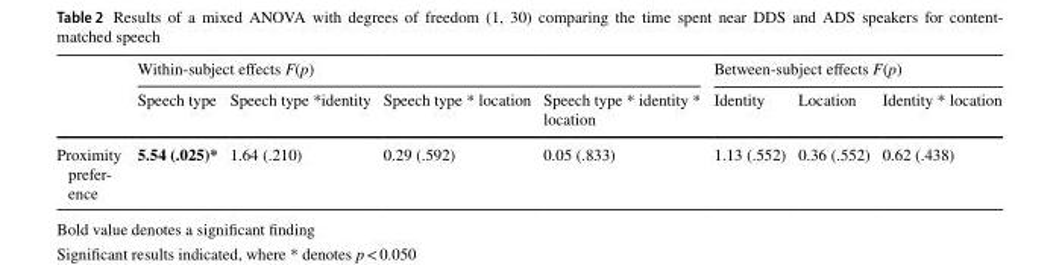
<table><thead><tr><td rowspan="2"></td><td colspan="4">Within-subject effects F(p)</td><td colspan="3">Between-subject effects F(p)</td></tr><tr><td>Speech type</td><td>Speech type *identity</td><td>Speech type * location</td><td>Speech type * identity * location</td><td>Identity</td><td>Location</td><td>Identity * location</td></tr></thead><tbody><tr><td>Proximity prefer- ence</td><td>5.54 (.025)*</td><td>1.64 (.210)</td><td>0.29 (.592)</td><td>0.05 (.833)</td><td>1.13 (.552)</td><td>0.36 (.552)</td><td>0.62 (.438)</td></tr></tbody></table>